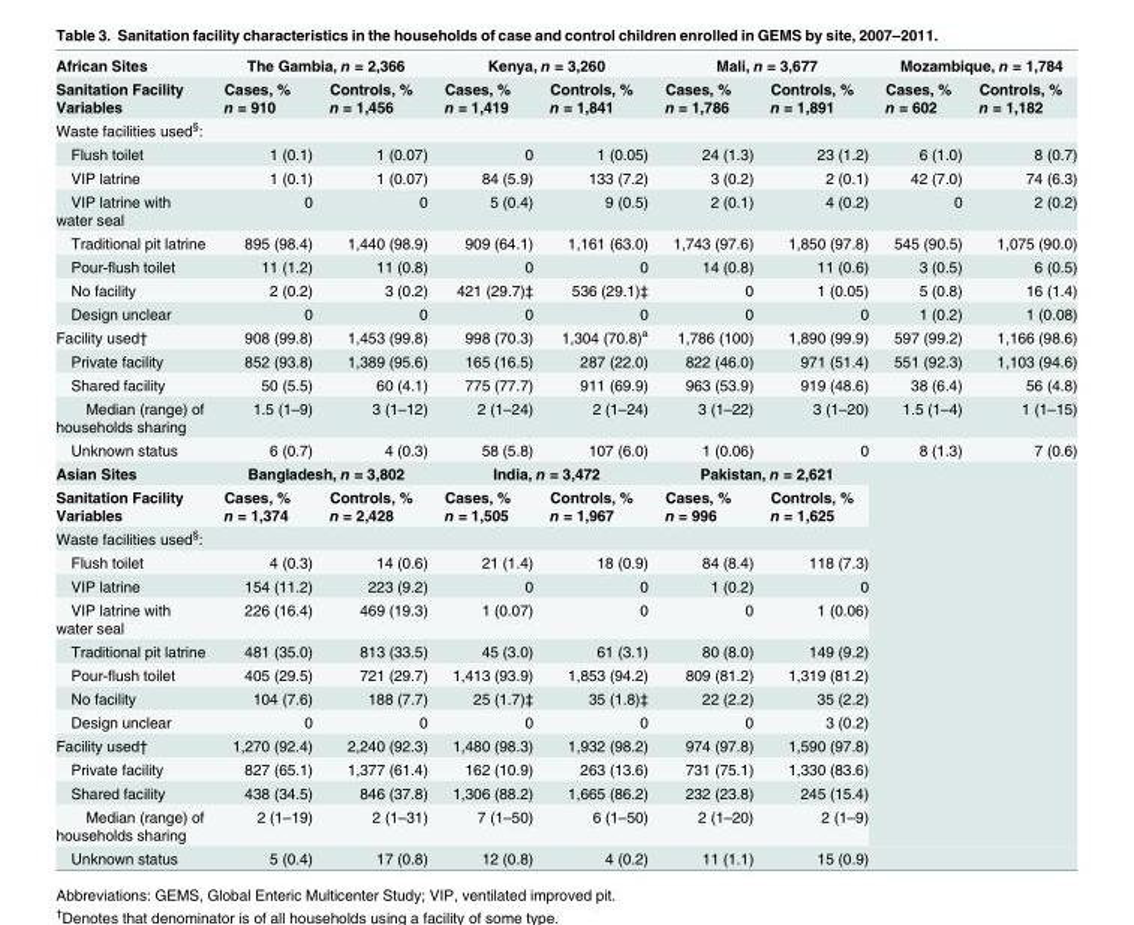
<table><tbody><tr><td>African Sites</td><td colspan="2">The Gambia, n = 2,366</td><td colspan="2">Kenya, n = 3,260</td><td colspan="2">Mali, n = 3,677</td><td colspan="2">Mozambique, n = 1,784</td></tr><tr><td>Sanitation Facility Variables</td><td>Cases, % n = 910</td><td>Controls, % n = 1,456</td><td>Cases, % n = 1,419</td><td>Controls, % n = 1,841</td><td>Cases, % n = 1,786</td><td>Controls, % n = 1,891</td><td>Cases, % n = 602</td><td>Controls, % n = 1,182</td></tr><tr><td colspan="9">Waste facilities used<sup>§</sup>:</td></tr><tr><td>Flush toilet</td><td>1 (0.1)</td><td>1 (0.07)</td><td>0</td><td>1 (0.05)</td><td>24 (1.3)</td><td>23 (1.2)</td><td>6 (1.0)</td><td>8 (0.7)</td></tr><tr><td>VIP latrine</td><td>1 (0.1)</td><td>1 (0.07)</td><td>84 (5.9)</td><td>133 (7.2)</td><td>3 (0.2)</td><td>2 (0.1)</td><td>42 (7.0)</td><td>74 (6.3)</td></tr><tr><td>VIP latrine with water seal</td><td>0</td><td>0</td><td>5 (0.4)</td><td>9 (0.5)</td><td>2 (0.1)</td><td>4 (0.2)</td><td>0</td><td>2 (0.2)</td></tr><tr><td>Traditional pit latrine</td><td>895 (98.4)</td><td>1,440 (98.9)</td><td>909 (64.1)</td><td>1,161 (63.0)</td><td>1,743 (97.6)</td><td>1,850 (97.8)</td><td>545 (90.5)</td><td>1,075 (90.0)</td></tr><tr><td>Pour-flush toilet</td><td>11 (1.2)</td><td>11 (0.8)</td><td>0</td><td>0</td><td>14 (0.8)</td><td>11 (0.6)</td><td>3 (0.5)</td><td>6 (0.5)</td></tr><tr><td>No facility</td><td>2 (0.2)</td><td>3 (0.2)</td><td>421 (29.7)‡</td><td>536 (29.1)‡</td><td>0</td><td>1 (0.05)</td><td>5 (0.8)</td><td>16 (1.4)</td></tr><tr><td>Design unclear</td><td>0</td><td>0</td><td>0</td><td>0</td><td>0</td><td>0</td><td>1 (0.2)</td><td>1 (0.08)</td></tr><tr><td>Facility used†</td><td>908 (99.8)</td><td>1,453 (99.8)</td><td>998 (70.3)</td><td>1,304 (70.8)<sup>a</sup></td><td>1,786 (100)</td><td>1,890 (99.9)</td><td>597 (99.2)</td><td>1,166 (98.6)</td></tr><tr><td>Private facility</td><td>852 (93.8)</td><td>1,389 (95.6)</td><td>165 (16.5)</td><td>287 (22.0)</td><td>822 (46.0)</td><td>971 (51.4)</td><td>551 (92.3)</td><td>1,103 (94.6)</td></tr><tr><td>Shared facility</td><td>50 (5.5)</td><td>60 (4.1)</td><td>775 (77.7)</td><td>911 (69.9)</td><td>963 (53.9)</td><td>919 (48.6)</td><td>38 (6.4)</td><td>56 (4.8)</td></tr><tr><td>Median (range) of households sharing</td><td>1.5 (1–9)</td><td>3 (1–12)</td><td>2 (1–24)</td><td>2 (1–24)</td><td>3 (1–22)</td><td>3 (1–20)</td><td>1.5 (1–4)</td><td>1 (1–15)</td></tr><tr><td>Unknown status</td><td>6 (0.7)</td><td>4 (0.3)</td><td>58 (5.8)</td><td>107 (6.0)</td><td>1 (0.06)</td><td>0</td><td>8 (1.3)</td><td>7 (0.6)</td></tr><tr><td>Asian Sites</td><td colspan="2">Bangladesh, n = 3,802</td><td colspan="2">India, n = 3,472</td><td colspan="2">Pakistan, n = 2,621</td><td rowspan="14" colspan="2"></td></tr><tr><td>Sanitation Facility Variables</td><td>Cases, % n = 1,374</td><td>Controls, % n = 2,428</td><td>Cases, % n = 1,505</td><td>Controls, % n = 1,967</td><td>Cases, % n = 996</td><td>Controls, % n = 1,625</td></tr><tr><td colspan="7">Waste facilities used<sup>§</sup>:</td></tr><tr><td>Flush toilet</td><td>4 (0.3)</td><td>14 (0.6)</td><td>21 (1.4)</td><td>18 (0.9)</td><td>84 (8.4)</td><td>118 (7.3)</td></tr><tr><td>VIP latrine</td><td>154 (11.2)</td><td>223 (9.2)</td><td>0</td><td>0</td><td>1 (0.2)</td><td>0</td></tr><tr><td>VIP latrine with water seal</td><td>226 (16.4)</td><td>469 (19.3)</td><td>1 (0.07)</td><td>0</td><td>0</td><td>1 (0.06)</td></tr><tr><td>Traditional pit latrine</td><td>481 (35.0)</td><td>813 (33.5)</td><td>45 (3.0)</td><td>61 (3.1)</td><td>80 (8.0)</td><td>149 (9.2)</td></tr><tr><td>Pour-flush toilet</td><td>405 (29.5)</td><td>721 (29.7)</td><td>1,413 (93.9)</td><td>1,853 (94.2)</td><td>809 (81.2)</td><td>1,319 (81.2)</td></tr><tr><td>No facility</td><td>104 (7.6)</td><td>188 (7.7)</td><td>25 (1.7)‡</td><td>35 (1.8)‡</td><td>22 (2.2)</td><td>35 (2.2)</td></tr><tr><td>Design unclear</td><td>0</td><td>0</td><td>0</td><td>0</td><td>0</td><td>3 (0.2)</td></tr><tr><td>Facility used†</td><td>1,270 (92.4)</td><td>2,240 (92.3)</td><td>1,480 (98.3)</td><td>1,932 (98.2)</td><td>974 (97.8)</td><td>1,590 (97.8)</td></tr><tr><td>Private facility</td><td>827 (65.1)</td><td>1,377 (61.4)</td><td>162 (10.9)</td><td>263 (13.6)</td><td>731 (75.1)</td><td>1,330 (83.6)</td></tr><tr><td>Shared facility</td><td>438 (34.5)</td><td>846 (37.8)</td><td>1,306 (88.2)</td><td>1,665 (86.2)</td><td>232 (23.8)</td><td>245 (15.4)</td></tr><tr><td>Median (range) of households sharing</td><td>2 (1–19)</td><td>2 (1–31)</td><td>7 (1–50)</td><td>6 (1–50)</td><td>2 (1–20)</td><td>2 (1–9)</td></tr><tr><td>Unknown status</td><td>5 (0.4)</td><td>17 (0.8)</td><td>12 (0.8)</td><td>4 (0.2)</td><td>11 (1.1)</td><td>15 (0.9)</td><td colspan="2"></td></tr></tbody></table>